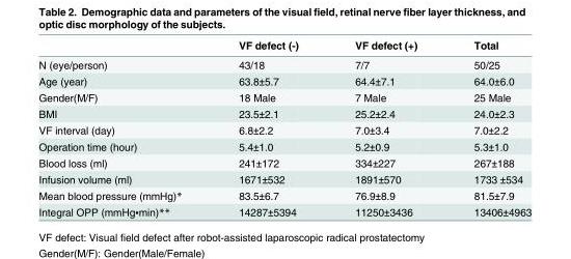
<table><thead><tr><td></td><td>VF defect (-)</td><td>VF defect (+)</td><td>Total</td></tr></thead><tbody><tr><td>N (eye/person)</td><td>43/18</td><td>7/7</td><td>50/25</td></tr><tr><td>Age (year)</td><td>63.8±5.7</td><td>64.4±7.1</td><td>64.0±6.0</td></tr><tr><td>Gender(M/F)</td><td>18 Male</td><td>7 Male</td><td>25 Male</td></tr><tr><td>BMI</td><td>23.5±2.1</td><td>25.2±2.4</td><td>24.0±2.3</td></tr><tr><td>VF interval (day)</td><td>6.8±2.2</td><td>7.0±3.4</td><td>7.0±2.2</td></tr><tr><td>Operation time (hour)</td><td>5.4±1.0</td><td>5.2±0.9</td><td>5.3±1.0</td></tr><tr><td>Blood loss (ml)</td><td>241±172</td><td>334±227</td><td>267±188</td></tr><tr><td>Infusion volume (ml)</td><td>1671±532</td><td>1891±570</td><td>1733 ±534</td></tr><tr><td>Mean blood pressure (mmHg)*</td><td>83.5±6.7</td><td>76.9±8.9</td><td>81.5±7.9</td></tr><tr><td>Integral OPP (mmHg▪min)**</td><td>14287±5394</td><td>11250±3436</td><td>13406±4963</td></tr></tbody></table>